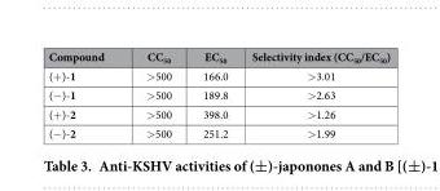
<table><thead><tr><td>Compound</td><td>CC<sub>50</sub></td><td>EC<sub>50</sub></td><td>Selectivity index (CC<sub>50</sub>/EC<sub>50</sub>)</td></tr></thead><tbody><tr><td>(+ )-1</td><td>&gt; 500</td><td>166.0</td><td>&gt; 3.01</td></tr><tr><td>(− )-1</td><td>&gt; 500</td><td>189.8</td><td>&gt; 2.63</td></tr><tr><td>(+ )-2</td><td>&gt; 500</td><td>398.0</td><td>&gt; 1.26</td></tr><tr><td>(− )-2</td><td>&gt; 500</td><td>251.2</td><td>&gt; 1.99</td></tr></tbody></table>